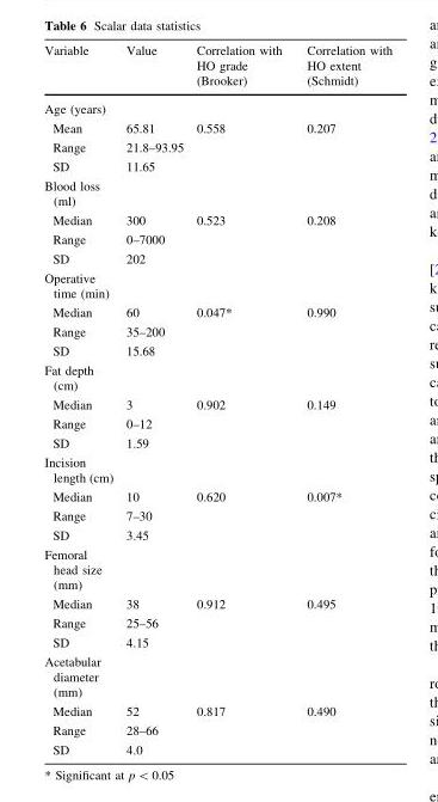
<table><thead><tr><td>Variable</td><td>Value</td><td>Correlation with HO grade (Brooker)</td><td>Correlation with HO extent (Schmidt)</td></tr></thead><tbody><tr><td colspan="4">Age (years)</td></tr><tr><td>Mean</td><td>65.81</td><td>0.558</td><td>0.207</td></tr><tr><td>Range</td><td>21.8–93.95</td><td></td><td></td></tr><tr><td>SD</td><td>11.65</td><td></td><td></td></tr><tr><td colspan="4">Blood loss (ml)</td></tr><tr><td>Median</td><td>300</td><td>0.523</td><td>0.208</td></tr><tr><td>Range</td><td>0–7000</td><td></td><td></td></tr><tr><td>SD</td><td>202</td><td></td><td></td></tr><tr><td colspan="4">Operative time (min)</td></tr><tr><td>Median</td><td>60</td><td>0.047*</td><td>0.990</td></tr><tr><td>Range</td><td>35–200</td><td></td><td></td></tr><tr><td>SD</td><td>15.68</td><td></td><td></td></tr><tr><td colspan="4">Fat depth (cm)</td></tr><tr><td>Median</td><td>3</td><td>0.902</td><td>0.149</td></tr><tr><td>Range</td><td>0–12</td><td></td><td></td></tr><tr><td>SD</td><td>1.59</td><td></td><td></td></tr><tr><td colspan="4">Incision length (cm)</td></tr><tr><td>Median</td><td>10</td><td>0.620</td><td>0.007*</td></tr><tr><td>Range</td><td>7–30</td><td></td><td></td></tr><tr><td>SD</td><td>3.45</td><td></td><td></td></tr><tr><td colspan="4">Femoral head size (mm)</td></tr><tr><td>Median</td><td>38</td><td>0.912</td><td>0.495</td></tr><tr><td>Range</td><td>25–56</td><td></td><td></td></tr><tr><td>SD</td><td>4.15</td><td></td><td></td></tr><tr><td colspan="4">Acetabular diameter (mm)</td></tr><tr><td>Median</td><td>52</td><td>0.817</td><td>0.490</td></tr><tr><td>Range</td><td>28–66</td><td></td><td></td></tr><tr><td>SD</td><td>4.0</td><td></td><td></td></tr></tbody></table>